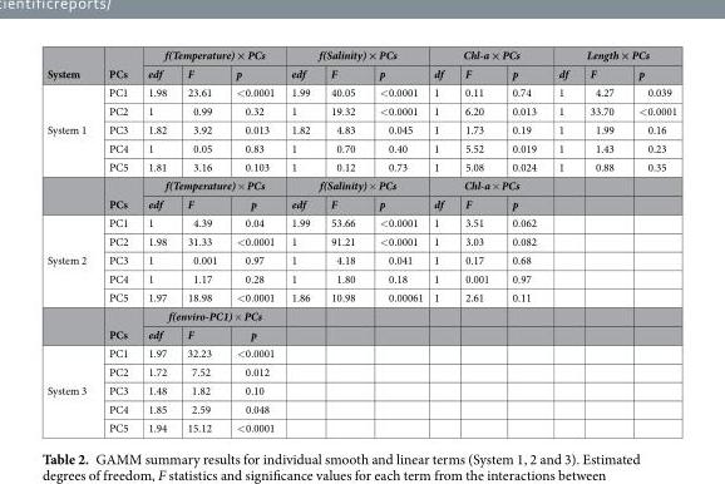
<table><thead><tr><td rowspan="2">System</td><td rowspan="2">PCs</td><td colspan="3">f(Temperature) × PCs</td><td colspan="3">f(Salinity) × PCs</td><td colspan="3">Chl-a × PCs</td><td colspan="3">Length × PCs</td></tr><tr><td>edf</td><td>F</td><td>p</td><td>edf</td><td>F</td><td>p</td><td>df</td><td>F</td><td>p</td><td>df</td><td>F</td><td>p</td></tr></thead><tbody><tr><td rowspan="7">System 1</td><td>PC1</td><td>1.98</td><td>23.61</td><td>&lt;0.0001</td><td>1.99</td><td>40.05</td><td>&lt;0.0001</td><td>1</td><td>0.11</td><td>0.74</td><td>1</td><td>4.27</td><td>0.039</td></tr><tr><td>PC2</td><td>1</td><td>0.99</td><td>0.32</td><td>1</td><td>19.32</td><td>&lt;0.0001</td><td>1</td><td>6.20</td><td>0.013</td><td>1</td><td>33.70</td><td>&lt;0.0001</td></tr><tr><td>PC3</td><td>1.82</td><td>3.92</td><td>0.013</td><td>1.82</td><td>4.83</td><td>0.045</td><td>1</td><td>1.73</td><td>0.19</td><td>1</td><td>1.99</td><td>0.16</td></tr><tr><td>PC4</td><td>1</td><td>0.05</td><td>0.83</td><td>1</td><td>0.70</td><td>0.40</td><td>1</td><td>5.52</td><td>0.019</td><td>1</td><td>1.43</td><td>0.23</td></tr><tr><td>PC5</td><td>1.81</td><td>3.16</td><td>0.103</td><td>1</td><td>0.12</td><td>0.73</td><td>1</td><td>5.08</td><td>0.024</td><td>1</td><td>0.88</td><td>0.35</td></tr><tr><td rowspan="2">PCs</td><td colspan="3">f(Temperature) × PCs</td><td colspan="3">f(Salinity) × PCs</td><td colspan="3">Chl-a × PCs</td><td></td><td></td><td></td></tr><tr><td>edf</td><td>F</td><td>p</td><td>edf</td><td>F</td><td>p</td><td>df</td><td>F</td><td>p</td><td></td><td></td><td></td></tr><tr><td rowspan="7">System 2</td><td>PC1</td><td>1</td><td>4.39</td><td>0.04</td><td>1.99</td><td>53.66</td><td>&lt;0.0001</td><td>1</td><td>3.51</td><td>0.062</td><td></td><td></td><td></td></tr><tr><td>PC2</td><td>1.98</td><td>31.33</td><td>&lt;0.0001</td><td>1</td><td>91.21</td><td>&lt;0.0001</td><td>1</td><td>3.03</td><td>0.082</td><td></td><td></td><td></td></tr><tr><td>PC3</td><td>1</td><td>0.001</td><td>0.97</td><td>1</td><td>4.18</td><td>0.041</td><td>1</td><td>0.17</td><td>0.68</td><td></td><td></td><td></td></tr><tr><td>PC4</td><td>1</td><td>1.17</td><td>0.28</td><td>1</td><td>1.80</td><td>0.18</td><td>1</td><td>0.001</td><td>0.97</td><td></td><td></td><td></td></tr><tr><td>PC5</td><td>1.97</td><td>18.98</td><td>&lt;0.0001</td><td>1.86</td><td>10.98</td><td>0.00061</td><td>1</td><td>2.61</td><td>0.11</td><td></td><td></td><td></td></tr><tr><td rowspan="2">PCs</td><td colspan="3">f(enviro-PC1) × PCs</td><td></td><td></td><td></td><td></td><td></td><td></td><td></td><td></td><td></td></tr><tr><td>edf</td><td>F</td><td>p</td><td></td><td></td><td></td><td></td><td></td><td></td><td></td><td></td><td></td></tr><tr><td rowspan="5">System 3</td><td>PC1</td><td>1.97</td><td>32.23</td><td>&lt;0.0001</td><td></td><td></td><td></td><td></td><td></td><td></td><td></td><td></td><td></td></tr><tr><td>PC2</td><td>1.72</td><td>7.52</td><td>0.012</td><td></td><td></td><td></td><td></td><td></td><td></td><td></td><td></td><td></td></tr><tr><td>PC3</td><td>1.48</td><td>1.82</td><td>0.10</td><td></td><td></td><td></td><td></td><td></td><td></td><td></td><td></td><td></td></tr><tr><td>PC4</td><td>1.85</td><td>2.59</td><td>0.048</td><td></td><td></td><td></td><td></td><td></td><td></td><td></td><td></td><td></td></tr><tr><td>PC5</td><td>1.94</td><td>15.12</td><td>&lt;0.0001</td><td></td><td></td><td></td><td></td><td></td><td></td><td></td><td></td><td></td></tr></tbody></table>